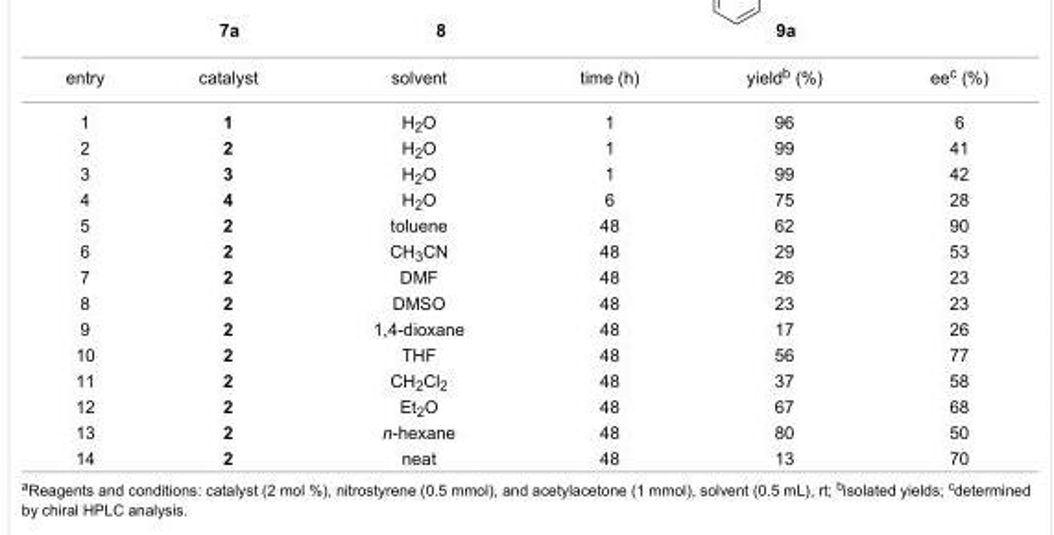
<table><tbody><tr><td>entry</td><td>catalyst</td><td>solvent</td><td>time (h)</td><td>yield<sup>b</sup> (%)</td><td>ee<sup>c</sup> (%)</td></tr><tr><td>1</td><td>1</td><td>H<sub>2</sub>O</td><td>1</td><td>96</td><td>6</td></tr><tr><td>2</td><td>2</td><td>H<sub>2</sub>O</td><td>1</td><td>99</td><td>41</td></tr><tr><td>3</td><td>3</td><td>H<sub>2</sub>O</td><td>1</td><td>99</td><td>42</td></tr><tr><td>4</td><td>4</td><td>H<sub>2</sub>O</td><td>6</td><td>75</td><td>28</td></tr><tr><td>5</td><td>2</td><td>toluene</td><td>48</td><td>62</td><td>90</td></tr><tr><td>6</td><td>2</td><td>CH<sub>3</sub>CN</td><td>48</td><td>29</td><td>53</td></tr><tr><td>7</td><td>2</td><td>DMF</td><td>48</td><td>26</td><td>23</td></tr><tr><td>8</td><td>2</td><td>DMSO</td><td>48</td><td>23</td><td>23</td></tr><tr><td>9</td><td>2</td><td>1,4-dioxane</td><td>48</td><td>17</td><td>26</td></tr><tr><td>10</td><td>2</td><td>THF</td><td>48</td><td>56</td><td>77</td></tr><tr><td>11</td><td>2</td><td>CH<sub>2</sub>Cl<sub>2</sub></td><td>48</td><td>37</td><td>58</td></tr><tr><td>12</td><td>2</td><td>Et<sub>2</sub>O</td><td>48</td><td>67</td><td>68</td></tr><tr><td>13</td><td>2</td><td>n-hexane</td><td>48</td><td>80</td><td>50</td></tr><tr><td>14</td><td>2</td><td>neat</td><td>48</td><td>13</td><td>70</td></tr></tbody></table>